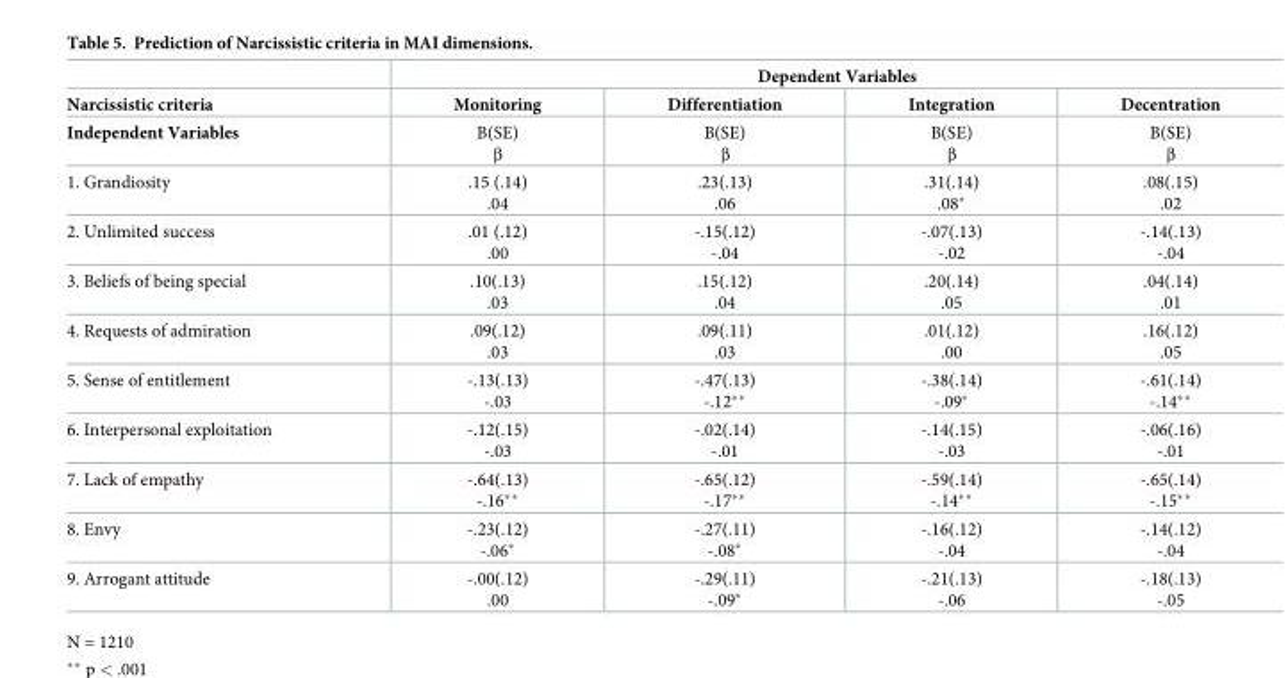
<table><thead><tr><td rowspan="2">Narcissistic criteria</td><td colspan="4">Dependent Variables</td></tr><tr><td>Monitoring</td><td>Differentiation</td><td>Integration</td><td>Decentration</td></tr></thead><tbody><tr><td>Independent Variables</td><td>B(SE) β</td><td>B(SE) β</td><td>B(SE) β</td><td>B(SE) β</td></tr><tr><td>1. Grandiosity</td><td>.15 (.14) .04</td><td>.23(.13) .06</td><td>.31(.14) .08*</td><td>.08(.15) .02</td></tr><tr><td>2. Unlimited success</td><td>.01 (.12) .00</td><td>-.15(.12) -.04</td><td>-.07(.13) -.02</td><td>-.14(.13) -.04</td></tr><tr><td>3. Beliefs of being special</td><td>.10(.13) .03</td><td>.15(.12) .04</td><td>.20(.14) .05</td><td>.04(.14) .01</td></tr><tr><td>4. Requests of admiration</td><td>.09(.12) .03</td><td>.09(.11) .03</td><td>.01(.12) .00</td><td>.16(.12) .05</td></tr><tr><td>5. Sense of entitlement</td><td>-.13(.13) -.03</td><td>-.47(.13) -.12**</td><td>-.38(.14) -.09*</td><td>-.61(.14) -.14**</td></tr><tr><td>6. Interpersonal exploitation</td><td>-.12(.15) -.03</td><td>-.02(.14) -.01</td><td>-.14(.15) -.03</td><td>-.06(.16) -.01</td></tr><tr><td>7. Lack of empathy</td><td>-.64(.13) -.16**</td><td>-.65(.12) -.17**</td><td>-.59(.14) -.14**</td><td>-.65(.14) -.15**</td></tr><tr><td>8. Envy</td><td>-.23(.12) -.06*</td><td>-.27(.11) -.08*</td><td>-.16(.12) -.04</td><td>-.14(.12) -.04</td></tr><tr><td>9. Arrogant attitude</td><td>-.00(.12) .00</td><td>-.29(.11) -.09*</td><td>-.21(.13) -.06</td><td>-.18(.13) -.05</td></tr></tbody></table>